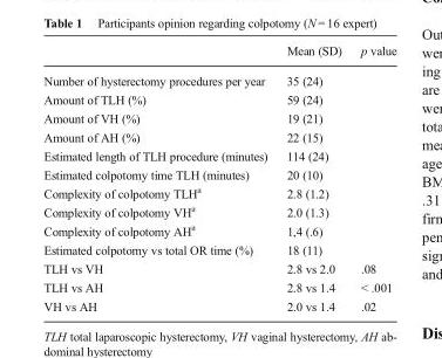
<table><thead><tr><td></td><td>Mean (SD)</td><td>p value</td></tr></thead><tbody><tr><td>Number of hysterectomy procedures per year</td><td>35 (24)</td><td></td></tr><tr><td>Amount of TLH (%)</td><td>59 (24)</td><td></td></tr><tr><td>Amount of VH (%)</td><td>19 (21)</td><td></td></tr><tr><td>Amount of AH (%)</td><td>22 (15)</td><td></td></tr><tr><td>Estimated length of TLH procedure (minutes)</td><td>114 (24)</td><td></td></tr><tr><td>Estimated colpotomy time TLH (minutes)</td><td>20 (10)</td><td></td></tr><tr><td>Complexity of colpotomy TLH<sup>a</sup></td><td>2.8 (1.2)</td><td></td></tr><tr><td>Complexity of colpotomy VH<sup>a</sup></td><td>2.0 (1.3)</td><td></td></tr><tr><td>Complexity of colpotomy AH<sup>a</sup></td><td>1,4 (.6)</td><td></td></tr><tr><td>Estimated colpotomy vs total OR time (%)</td><td>18 (11)</td><td></td></tr><tr><td>TLH vs VH</td><td>2.8 vs 2.0</td><td>.08</td></tr><tr><td>TLH vs AH</td><td>2.8 vs 1.4</td><td>&lt; .001</td></tr><tr><td>VH vs AH</td><td>2.0 vs 1.4</td><td>.02</td></tr></tbody></table>